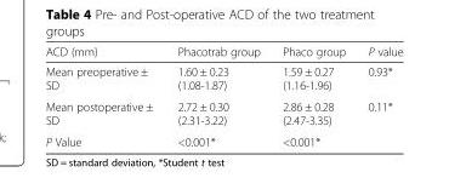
<table><thead><tr><td>ACD (mm)</td><td>Phacotrab group</td><td>Phaco group</td><td>P value</td></tr></thead><tbody><tr><td>Mean preoperative ± SD</td><td>1.60 ± 0.23 (1.08-1.87)</td><td>1.59 ± 0.27 (1.16-1.96)</td><td>0.93*</td></tr><tr><td>Mean postoperative ± SD</td><td>2.72 ± 0.30 (2.31-3.22)</td><td>2.86 ± 0.28 (2.47-3.35)</td><td>0.11*</td></tr><tr><td>P Value</td><td>&lt;0.001*</td><td>&lt;0.001*</td><td></td></tr></tbody></table>